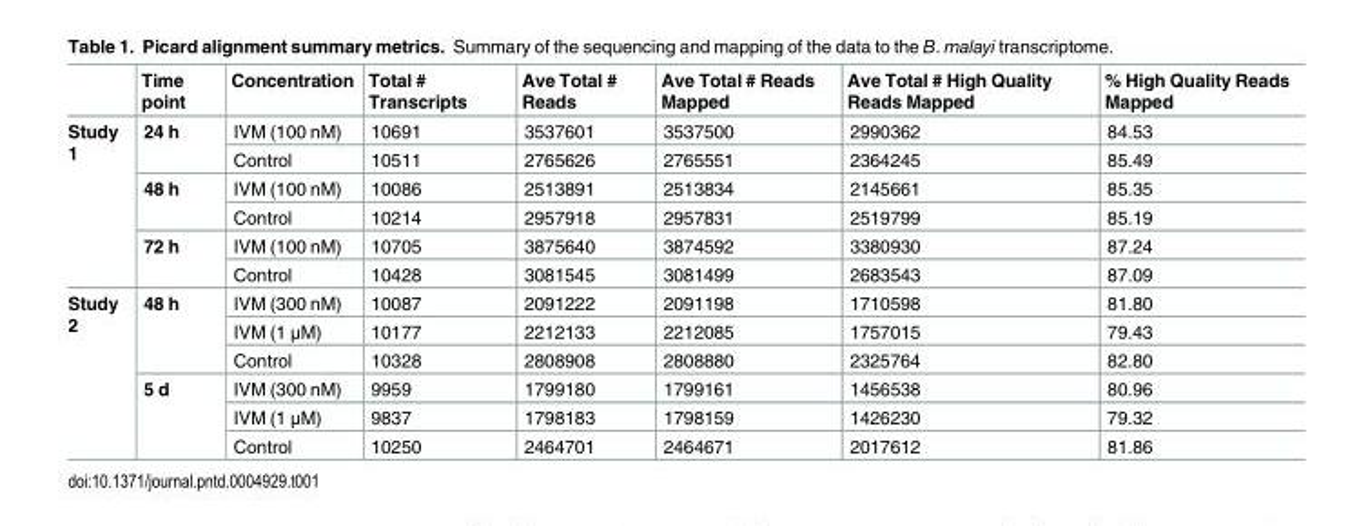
<table><thead><tr><td></td><td>Time point</td><td>Concentration</td><td>Total # Transcripts</td><td>Ave Total # Reads</td><td>Ave Total # Reads Mapped</td><td>Ave Total # High Quality Reads Mapped</td><td>% High Quality Reads Mapped</td></tr></thead><tbody><tr><td rowspan="6">Study 1</td><td rowspan="2">24 h</td><td>IVM (100 nM)</td><td>10691</td><td>3537601</td><td>3537500</td><td>2990362</td><td>84.53</td></tr><tr><td>Control</td><td>10511</td><td>2765626</td><td>2765551</td><td>2364245</td><td>85.49</td></tr><tr><td rowspan="2">48 h</td><td>IVM (100 nM)</td><td>10086</td><td>2513891</td><td>2513834</td><td>2145661</td><td>85.35</td></tr><tr><td>Control</td><td>10214</td><td>2957918</td><td>2957831</td><td>2519799</td><td>85.19</td></tr><tr><td rowspan="2">72 h</td><td>IVM (100 nM)</td><td>10705</td><td>3875640</td><td>3874592</td><td>3380930</td><td>87.24</td></tr><tr><td>Control</td><td>10428</td><td>3081545</td><td>3081499</td><td>2683543</td><td>87.09</td></tr><tr><td rowspan="6">Study 2</td><td rowspan="3">48 h</td><td>IVM (300 nM)</td><td>10087</td><td>2091222</td><td>2091198</td><td>1710598</td><td>81.80</td></tr><tr><td>IVM (1 μM)</td><td>10177</td><td>2212133</td><td>2212085</td><td>1757015</td><td>79.43</td></tr><tr><td>Control</td><td>10328</td><td>2808908</td><td>2808880</td><td>2325764</td><td>82.80</td></tr><tr><td rowspan="3">5 d</td><td>IVM (300 nM)</td><td>9959</td><td>1799180</td><td>1799161</td><td>1456538</td><td>80.96</td></tr><tr><td>IVM (1 μM)</td><td>9837</td><td>1798183</td><td>1798159</td><td>1426230</td><td>79.32</td></tr><tr><td>Control</td><td>10250</td><td>2464701</td><td>2464671</td><td>2017612</td><td>81.86</td></tr></tbody></table>